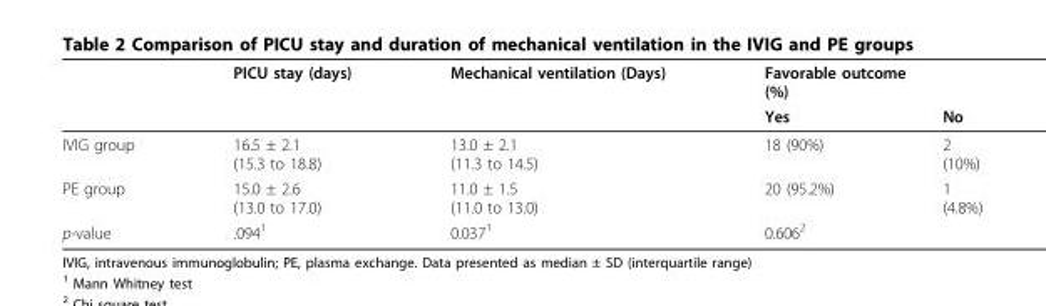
<table><thead><tr><td rowspan="2"></td><td rowspan="2">PICU stay (days)</td><td rowspan="2">Mechanical ventilation (Days)</td><td colspan="2">Favorable outcome (%)</td></tr><tr><td>Yes</td><td>No</td></tr></thead><tbody><tr><td>IVIG group</td><td>16.5 ± 2.1 (15.3 to 18.8)</td><td>13.0 ± 2.1 (11.3 to 14.5)</td><td>18 (90%)</td><td>2 (10%)</td></tr><tr><td>PE group</td><td>15.0 ± 2.6 (13.0 to 17.0)</td><td>11.0 ± 1.5 (11.0 to 13.0)</td><td>20 (95.2%)</td><td>1 (4.8%)</td></tr><tr><td>p-value</td><td>.094<sup>1</sup></td><td>0.037<sup>1</sup></td><td colspan="2">0.606<sup>2</sup></td></tr></tbody></table>